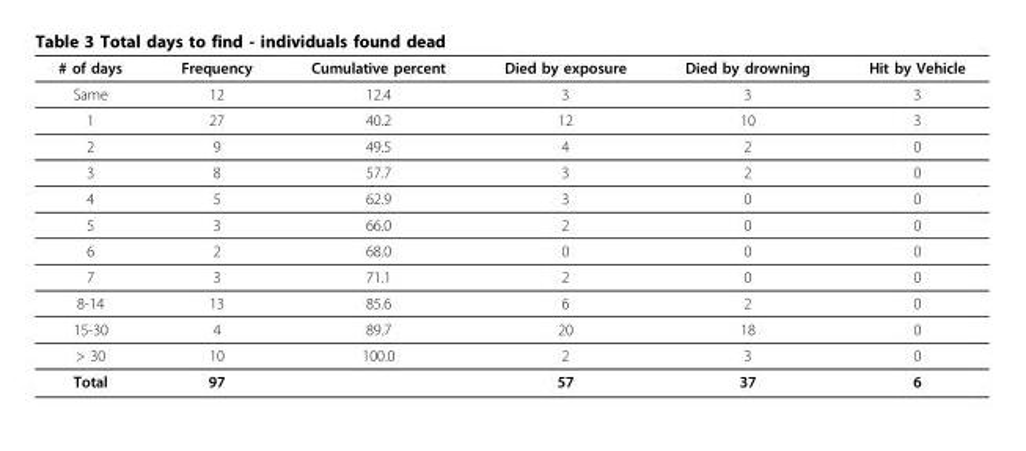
<table><thead><tr><td># of days</td><td>Frequency</td><td>Cumulative percent</td><td>Died by exposure</td><td>Died by drowning</td><td>Hit by Vehicle</td></tr></thead><tbody><tr><td>Same</td><td>12</td><td>12.4</td><td>3</td><td>3</td><td>3</td></tr><tr><td>1</td><td>27</td><td>40.2</td><td>12</td><td>10</td><td>3</td></tr><tr><td>2</td><td>9</td><td>49.5</td><td>4</td><td>2</td><td>0</td></tr><tr><td>3</td><td>8</td><td>57.7</td><td>3</td><td>2</td><td>0</td></tr><tr><td>4</td><td>5</td><td>62.9</td><td>3</td><td>0</td><td>0</td></tr><tr><td>5</td><td>3</td><td>66.0</td><td>2</td><td>0</td><td>0</td></tr><tr><td>6</td><td>2</td><td>68.0</td><td>0</td><td>0</td><td>0</td></tr><tr><td>7</td><td>3</td><td>71.1</td><td>2</td><td>0</td><td>0</td></tr><tr><td>8-14</td><td>13</td><td>85.6</td><td>6</td><td>2</td><td>0</td></tr><tr><td>15-30</td><td>4</td><td>89.7</td><td>20</td><td>18</td><td>0</td></tr><tr><td>&gt; 30</td><td>10</td><td>100.0</td><td>2</td><td>3</td><td>0</td></tr><tr><td>Total</td><td>97</td><td></td><td>57</td><td>37</td><td>6</td></tr></tbody></table>